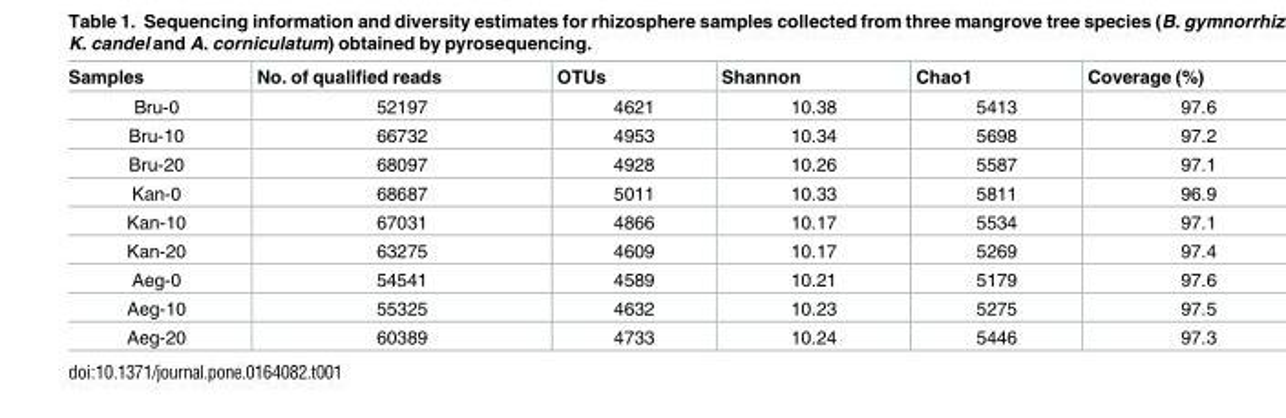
<table><thead><tr><td>Samples</td><td>No. of qualified reads</td><td>OTUs</td><td>Shannon</td><td>Chao1</td><td>Coverage (%)</td></tr></thead><tbody><tr><td>Bru-0</td><td>52197</td><td>4621</td><td>10.38</td><td>5413</td><td>97.6</td></tr><tr><td>Bru-10</td><td>66732</td><td>4953</td><td>10.34</td><td>5698</td><td>97.2</td></tr><tr><td>Bru-20</td><td>68097</td><td>4928</td><td>10.26</td><td>5587</td><td>97.1</td></tr><tr><td>Kan-0</td><td>68687</td><td>5011</td><td>10.33</td><td>5811</td><td>96.9</td></tr><tr><td>Kan-10</td><td>67031</td><td>4866</td><td>10.17</td><td>5534</td><td>97.1</td></tr><tr><td>Kan-20</td><td>63275</td><td>4609</td><td>10.17</td><td>5269</td><td>97.4</td></tr><tr><td>Aeg-0</td><td>54541</td><td>4589</td><td>10.21</td><td>5179</td><td>97.6</td></tr><tr><td>Aeg-10</td><td>55325</td><td>4632</td><td>10.23</td><td>5275</td><td>97.5</td></tr><tr><td>Aeg-20</td><td>60389</td><td>4733</td><td>10.24</td><td>5446</td><td>97.3</td></tr></tbody></table>